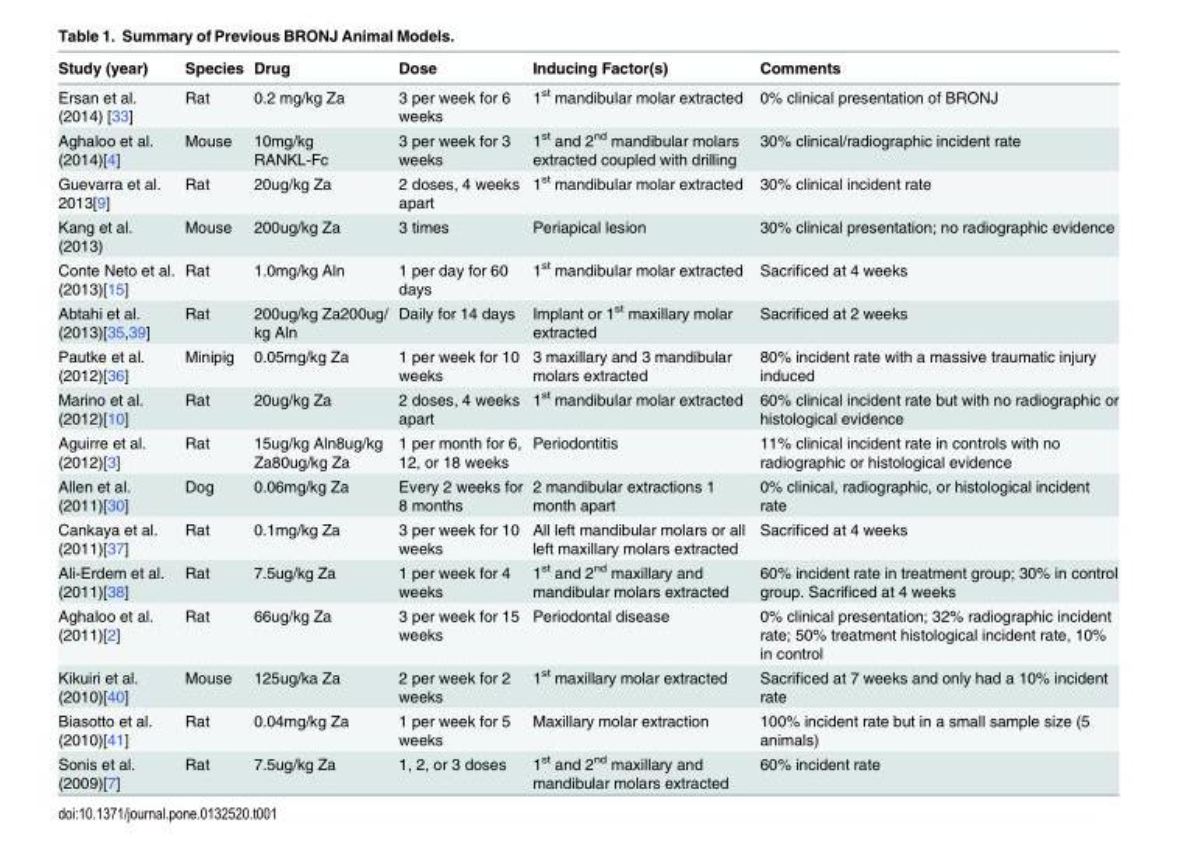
<table><thead><tr><td>Study (year)</td><td>Species</td><td>Drug</td><td>Dose</td><td>Inducing Factor(s)</td><td>Comments</td></tr></thead><tbody><tr><td>Ersan et al. (2014) [33]</td><td>Rat</td><td>0.2 mg/kg Za</td><td>3 per week for 6 weeks</td><td>1<sup>st</sup> mandibular molar extracted</td><td>0% clinical presentation of BRONJ</td></tr><tr><td>Aghaloo et al. (2014)[4]</td><td>Mouse</td><td>10mg/kg RANKL-Fc</td><td>3 per week for 3 weeks</td><td>1<sup>st</sup> and 2<sup>nd</sup> mandibular molars extracted coupled with drilling</td><td>30% clinical/radiographic incident rate</td></tr><tr><td>Guevarra et al. 2013[9]</td><td>Rat</td><td>20ug/kg Za</td><td>2 doses, 4 weeks apart</td><td>1<sup>st</sup> mandibular molar extracted</td><td>30% clinical incident rate</td></tr><tr><td>Kang et al. (2013)</td><td>Mouse</td><td>200ug/kg Za</td><td>3 times</td><td>Periapical lesion</td><td>30% clinical presentation; no radiographic evidence</td></tr><tr><td>Conte Neto et al. (2013)[15]</td><td>Rat</td><td>1.0mg/kg Aln</td><td>1 per day for 60 days</td><td>1<sup>st</sup> mandibular molar extracted</td><td>Sacrificed at 4 weeks</td></tr><tr><td>Abtahi et al. (2013)[35,39]</td><td>Rat</td><td>200ug/kg Za200ug/ kg Aln</td><td>Daily for 14 days</td><td>Implant or 1<sup>st</sup> maxillary molar extracted</td><td>Sacrificed at 2 weeks</td></tr><tr><td>Pautke et al. (2012)[36]</td><td>Minipig</td><td>0.05mg/kg Za</td><td>1 per week for 10 weeks</td><td>3 maxillary and 3 mandibular molars extracted</td><td>80% incident rate with a massive traumatic injury induced</td></tr><tr><td>Marino et al. (2012)[10]</td><td>Rat</td><td>20ug/kg Za</td><td>2 doses, 4 weeks apart</td><td>1<sup>st</sup> mandibular molar extracted</td><td>60% clinical incident rate but with no radiographic or histological evidence</td></tr><tr><td>Aguirre et al. (2012)[3]</td><td>Rat</td><td>15ug/kg Aln8ug/kg Za80ug/kg Za</td><td>1 per month for 6, 12, or 18 weeks</td><td>Periodontitis</td><td>11% clinical incident rate in controls with no radiographic or histological evidence</td></tr><tr><td>Allen et al. (2011)[30]</td><td>Dog</td><td>0.06mg/kg Za</td><td>Every 2 weeks for 8 months</td><td>2 mandibular extractions 1 month apart</td><td>0% clinical, radiographic, or histological incident rate</td></tr><tr><td>Cankaya et al. (2011)[37]</td><td>Rat</td><td>0.1mg/kg Za</td><td>3 per week for 10 weeks</td><td>All left mandibular molars or all left maxillary molars extracted</td><td>Sacrificed at 4 weeks</td></tr><tr><td>Ali-Erdem et al. (2011)[38]</td><td>Rat</td><td>7.5ug/kg Za</td><td>1 per week for 4 weeks</td><td>1<sup>st</sup> and 2<sup>nd</sup> maxillary and mandibular molars extracted</td><td>60% incident rate in treatment group; 30% in control group. Sacrificed at 4 weeks</td></tr><tr><td>Aghaloo et al. (2011)[2]</td><td>Rat</td><td>66ug/kg Za</td><td>3 per week for 15 weeks</td><td>Periodontal disease</td><td>0% clinical presentation; 32% radiographic incident rate; 50% treatment histological incident rate, 10% in control</td></tr><tr><td>Kikuiri et al. (2010)[40]</td><td>Mouse</td><td>125ug/ka Za</td><td>2 per week for 2 weeks</td><td>1<sup>st</sup> maxillary molar extracted</td><td>Sacrificed at 7 weeks and only had a 10% incident rate</td></tr><tr><td>Biasotto et al. (2010)[41]</td><td>Rat</td><td>0.04mg/kg Za</td><td>1 per week for 5 weeks</td><td>Maxillary molar extraction</td><td>100% incident rate but in a small sample size (5 animals)</td></tr><tr><td>Sonis et al. (2009)[7]</td><td>Rat</td><td>7.5ug/kg Za</td><td>1, 2, or 3 doses</td><td>1<sup>st</sup> and 2<sup>nd</sup> maxillary and mandibular molars extracted</td><td>60% incident rate</td></tr></tbody></table>